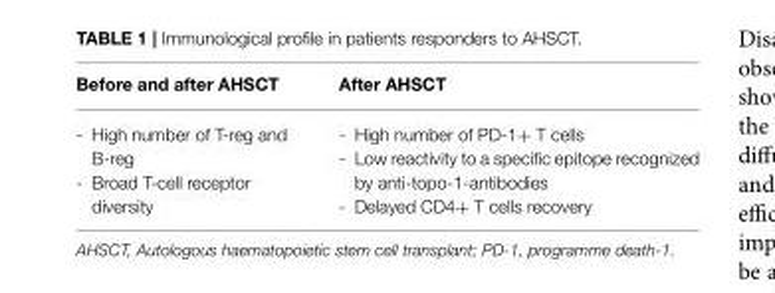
<table><thead><tr><td>Before and after AHSCT</td><td>After AHSCT</td></tr></thead><tbody><tr><td>- High number of T-reg and B-reg - Broad T-cell receptor diversity</td><td>- High number of PD-1+ T cells - Low reactivity to a specific epitope recognized by anti-topo-1-antibodies - Delayed CD4+ T cells recovery</td></tr></tbody></table>